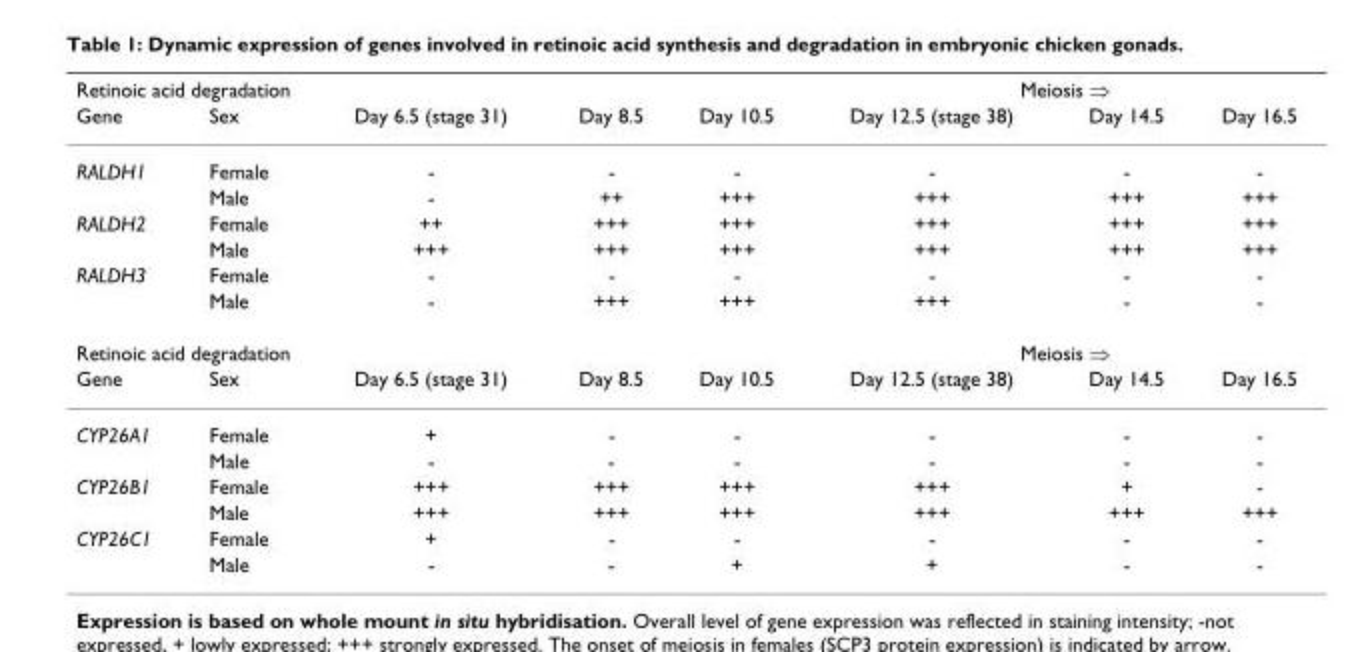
<table><thead><tr><td colspan="5">Retinoic acid degradation</td><td colspan="3">Meiosis ⇒</td></tr><tr><td>Gene</td><td>Sex</td><td>Day 6.5 (stage 31)</td><td>Day 8.5</td><td>Day 10.5</td><td>Day 12.5 (stage 38)</td><td>Day 14.5</td><td>Day 16.5</td></tr></thead><tbody><tr><td rowspan="2">RALDH1</td><td>Female</td><td>-</td><td>-</td><td>-</td><td>-</td><td>-</td><td>-</td></tr><tr><td>Male</td><td>-</td><td>++</td><td>+++</td><td>+++</td><td>+++</td><td>+++</td></tr><tr><td rowspan="2">RALDH2</td><td>Female</td><td>++</td><td>+++</td><td>+++</td><td>+++</td><td>+++</td><td>+++</td></tr><tr><td>Male</td><td>+++</td><td>+++</td><td>+++</td><td>+++</td><td>+++</td><td>+++</td></tr><tr><td rowspan="2">RALDH3</td><td>Female</td><td>-</td><td>-</td><td>-</td><td>-</td><td>-</td><td>-</td></tr><tr><td>Male</td><td>-</td><td>+++</td><td>+++</td><td>+++</td><td>-</td><td>-</td></tr><tr><td colspan="5">Retinoic acid degradation</td><td colspan="3">Meiosis ⇒</td></tr><tr><td>Gene</td><td>Sex</td><td>Day 6.5 (stage 31)</td><td>Day 8.5</td><td>Day 10.5</td><td>Day 12.5 (stage 38)</td><td>Day 14.5</td><td>Day 16.5</td></tr><tr><td rowspan="2">CYP26A1</td><td>Female</td><td>+</td><td>-</td><td>-</td><td>-</td><td>-</td><td>-</td></tr><tr><td>Male</td><td>-</td><td>-</td><td>-</td><td>-</td><td>-</td><td>-</td></tr><tr><td rowspan="2">CYP26B1</td><td>Female</td><td>+++</td><td>+++</td><td>+++</td><td>+++</td><td>+</td><td>-</td></tr><tr><td>Male</td><td>+++</td><td>+++</td><td>+++</td><td>+++</td><td>+++</td><td>+++</td></tr><tr><td rowspan="2">CYP26C1</td><td>Female</td><td>+</td><td>-</td><td>-</td><td>-</td><td>-</td><td>-</td></tr><tr><td>Male</td><td>-</td><td>-</td><td>+</td><td>+</td><td>-</td><td>-</td></tr></tbody></table>